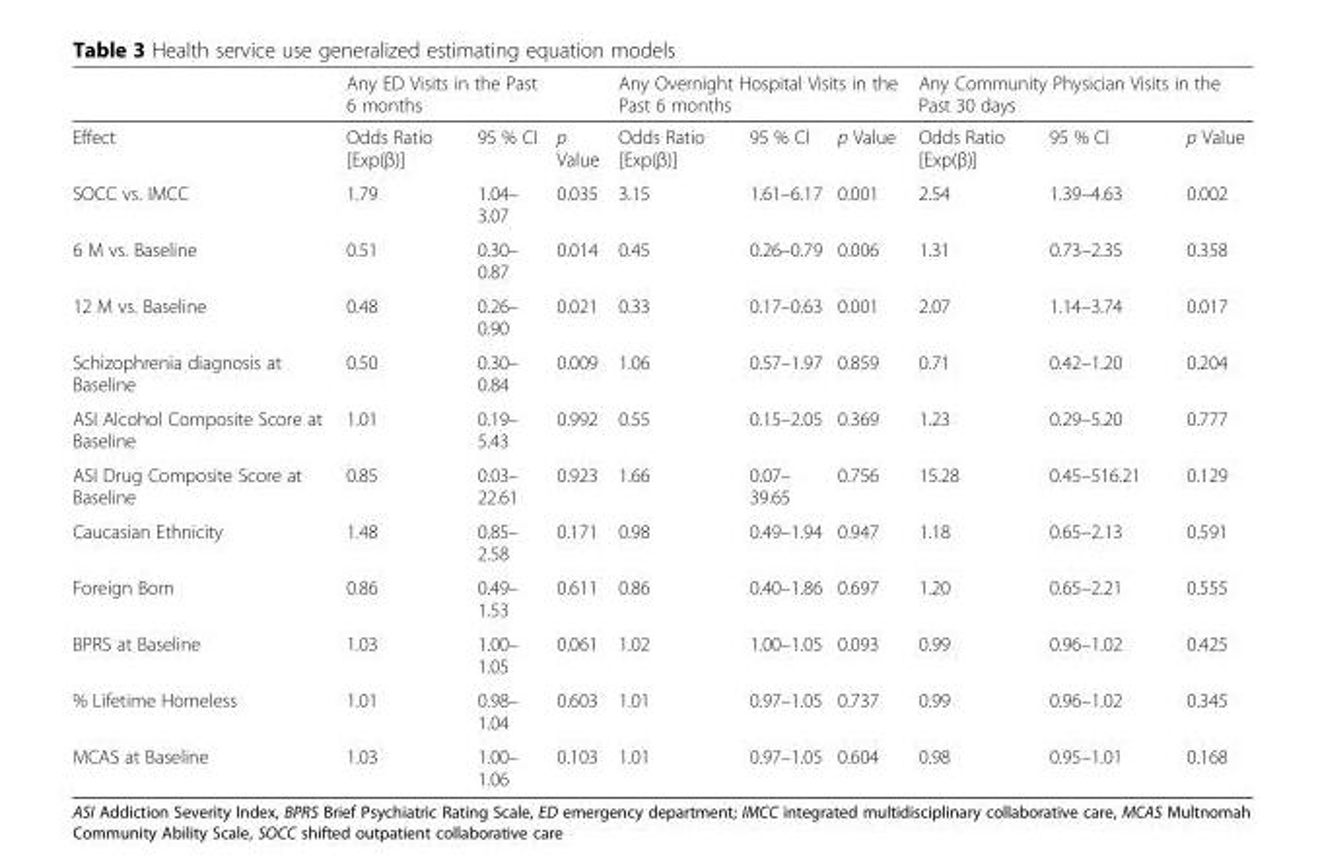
<table><thead><tr><td rowspan="2">Effect</td><td colspan="3">Any ED Visits in the Past 6 months</td><td colspan="3">Any Overnight Hospital Visits in the Past 6 months</td><td colspan="3">Any Community Physician Visits in the Past 30 days</td></tr><tr><td>Odds Ratio [Exp(β)]</td><td>95 % CI</td><td>p Value</td><td>Odds Ratio [Exp(β)]</td><td>95 % CI</td><td>p Value</td><td>Odds Ratio [Exp(β)]</td><td>95 % CI</td><td>p Value</td></tr></thead><tbody><tr><td>SOCC vs. IMCC</td><td>1.79</td><td>1.04– 3.07</td><td>0.035</td><td>3.15</td><td>1.61–6.17</td><td>0.001</td><td>2.54</td><td>1.39–4.63</td><td>0.002</td></tr><tr><td>6 M vs. Baseline</td><td>0.51</td><td>0.30– 0.87</td><td>0.014</td><td>0.45</td><td>0.26–0.79</td><td>0.006</td><td>1.31</td><td>0.73–2.35</td><td>0.358</td></tr><tr><td>12 M vs. Baseline</td><td>0.48</td><td>0.26– 0.90</td><td>0.021</td><td>0.33</td><td>0.17–0.63</td><td>0.001</td><td>2.07</td><td>1.14–3.74</td><td>0.017</td></tr><tr><td>Schizophrenia diagnosis at Baseline</td><td>0.50</td><td>0.30– 0.84</td><td>0.009</td><td>1.06</td><td>0.57–1.97</td><td>0.859</td><td>0.71</td><td>0.42–1.20</td><td>0.204</td></tr><tr><td>ASI Alcohol Composite Score at Baseline</td><td>1.01</td><td>0.19– 5.43</td><td>0.992</td><td>0.55</td><td>0.15–2.05</td><td>0.369</td><td>1.23</td><td>0.29–5.20</td><td>0.777</td></tr><tr><td>ASI Drug Composite Score at Baseline</td><td>0.85</td><td>0.03– 22.61</td><td>0.923</td><td>1.66</td><td>0.07– 39.65</td><td>0.756</td><td>15.28</td><td>0.45–516.21</td><td>0.129</td></tr><tr><td>Caucasian Ethnicity</td><td>1.48</td><td>0.85– 2.58</td><td>0.171</td><td>0.98</td><td>0.49–1.94</td><td>0.947</td><td>1.18</td><td>0.65–2.13</td><td>0.591</td></tr><tr><td>Foreign Born</td><td>0.86</td><td>0.49– 1.53</td><td>0.611</td><td>0.86</td><td>0.40–1.86</td><td>0.697</td><td>1.20</td><td>0.65–2.21</td><td>0.555</td></tr><tr><td>BPRS at Baseline</td><td>1.03</td><td>1.00– 1.05</td><td>0.061</td><td>1.02</td><td>1.00–1.05</td><td>0.093</td><td>0.99</td><td>0.96–1.02</td><td>0.425</td></tr><tr><td>% Lifetime Homeless</td><td>1.01</td><td>0.98– 1.04</td><td>0.603</td><td>1.01</td><td>0.97–1.05</td><td>0.737</td><td>0.99</td><td>0.96–1.02</td><td>0.345</td></tr><tr><td>MCAS at Baseline</td><td>1.03</td><td>1.00– 1.06</td><td>0.103</td><td>1.01</td><td>0.97–1.05</td><td>0.604</td><td>0.98</td><td>0.95–1.01</td><td>0.168</td></tr></tbody></table>